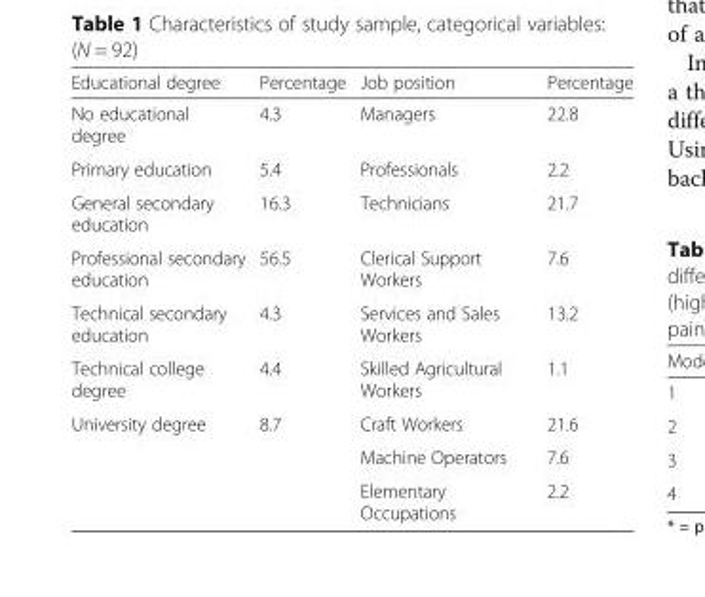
<table><thead><tr><td>Educational degree</td><td>Percentage</td><td>Job position</td><td>Percentage</td></tr></thead><tbody><tr><td>No educational degree</td><td>4.3</td><td>Managers</td><td>22.8</td></tr><tr><td>Primary education</td><td>5.4</td><td>Professionals</td><td>2.2</td></tr><tr><td>General secondary education</td><td>16.3</td><td>Technicians</td><td>21.7</td></tr><tr><td>Professional secondary education</td><td>56.5</td><td>Clerical Support Workers</td><td>7.6</td></tr><tr><td>Technical secondary education</td><td>4.3</td><td>Services and Sales Workers</td><td>13.2</td></tr><tr><td>Technical college degree</td><td>4.4</td><td>Skilled Agricultural Workers</td><td>1.1</td></tr><tr><td rowspan="3">University degree</td><td rowspan="3">8.7</td><td>Craft Workers</td><td>21.6</td></tr><tr><td>Machine Operators</td><td>7.6</td></tr><tr><td>Elementary Occupations</td><td>2.2</td></tr></tbody></table>